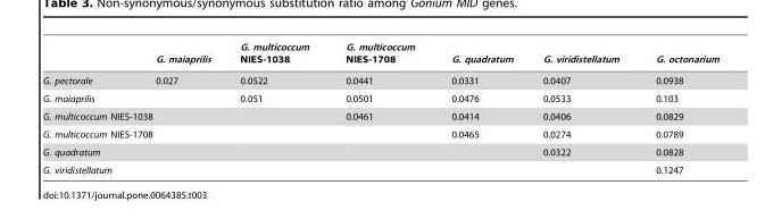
<table><thead><tr><td></td><td>G. maiaprilis</td><td>G. multicoccum NIES-1038</td><td>G. multicoccum NIES-1708</td><td>G. quadratum</td><td>G. viridistellatum</td><td>G. octonarium</td></tr></thead><tbody><tr><td>G. pectorale</td><td>0.027</td><td>0.0522</td><td>0.0441</td><td>0.0331</td><td>0.0407</td><td>0.0938</td></tr><tr><td>G. maiaprilis</td><td></td><td>0.051</td><td>0.0501</td><td>0.0476</td><td>0.0533</td><td>0.103</td></tr><tr><td>G. multicoccum NIES-1038</td><td></td><td></td><td>0.0461</td><td>0.0414</td><td>0.0406</td><td>0.0829</td></tr><tr><td>G. multicoccum NIES-1708</td><td></td><td></td><td></td><td>0.0465</td><td>0.0274</td><td>0.0789</td></tr><tr><td>G. quadratum</td><td></td><td></td><td></td><td></td><td>0.0322</td><td>0.0828</td></tr><tr><td>G. viridistellatum</td><td></td><td></td><td></td><td></td><td></td><td>0.1247</td></tr></tbody></table>